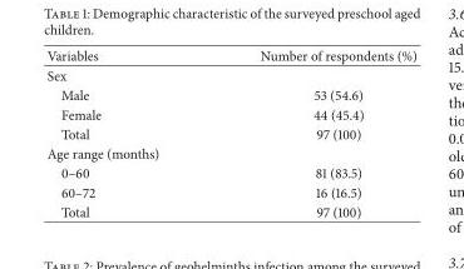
<table><thead><tr><td>Variables</td><td>Number of respondents (%)</td></tr></thead><tbody><tr><td colspan="2">Sex</td></tr><tr><td>Male</td><td>53 (54.6)</td></tr><tr><td>Female</td><td>44 (45.4)</td></tr><tr><td>Total</td><td>97 (100)</td></tr><tr><td colspan="2">Age range (months)</td></tr><tr><td>0–60</td><td>81 (83.5)</td></tr><tr><td>60–72</td><td>16 (16.5)</td></tr><tr><td>Total</td><td>97 (100)</td></tr></tbody></table>